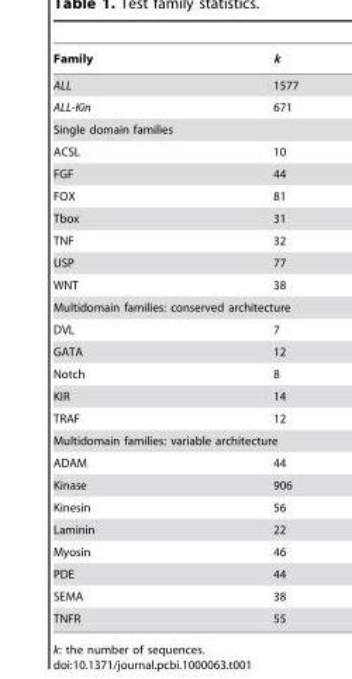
<table><thead><tr><td>Family</td><td>k</td></tr></thead><tbody><tr><td>ALL</td><td>1577</td></tr><tr><td>ALL-Kin</td><td>671</td></tr><tr><td colspan="2">Single domain families</td></tr><tr><td>ACSL</td><td>10</td></tr><tr><td>FGF</td><td>44</td></tr><tr><td>FOX</td><td>81</td></tr><tr><td>Tbox</td><td>31</td></tr><tr><td>TNF</td><td>32</td></tr><tr><td>USP</td><td>77</td></tr><tr><td>WNT</td><td>38</td></tr><tr><td colspan="2">Multidomain families: conserved architecture</td></tr><tr><td>DVL</td><td>7</td></tr><tr><td>GATA</td><td>12</td></tr><tr><td>Notch</td><td>8</td></tr><tr><td>KIR</td><td>14</td></tr><tr><td>TRAF</td><td>12</td></tr><tr><td colspan="2">Multidomain families: variable architecture</td></tr><tr><td>ADAM</td><td>44</td></tr><tr><td>Kinase</td><td>906</td></tr><tr><td>Kinesin</td><td>56</td></tr><tr><td>Laminin</td><td>22</td></tr><tr><td>Myosin</td><td>46</td></tr><tr><td>PDE</td><td>44</td></tr><tr><td>SEMA</td><td>38</td></tr><tr><td>TNFR</td><td>55</td></tr></tbody></table>